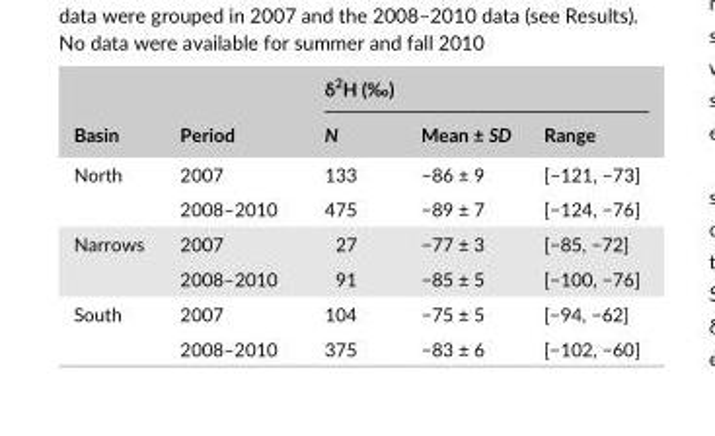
<table><thead><tr><td rowspan="2">Basin</td><td rowspan="2">Period</td><td colspan="3">δ<sup>2</sup>H (‰)</td></tr><tr><td>N</td><td>Mean ± SD</td><td>Range</td></tr></thead><tbody><tr><td rowspan="2">North</td><td>2007</td><td>133</td><td>−86 ± 9</td><td>[−121, −73]</td></tr><tr><td>2008–2010</td><td>475</td><td>−89 ± 7</td><td>[−124, −76]</td></tr><tr><td rowspan="2">Narrows</td><td>2007</td><td>27</td><td>−77 ± 3</td><td>[−85, −72]</td></tr><tr><td>2008–2010</td><td>91</td><td>−85 ± 5</td><td>[−100, −76]</td></tr><tr><td rowspan="2">South</td><td>2007</td><td>104</td><td>−75 ± 5</td><td>[−94, −62]</td></tr><tr><td>2008–2010</td><td>375</td><td>−83 ± 6</td><td>[−102, −60]</td></tr></tbody></table>